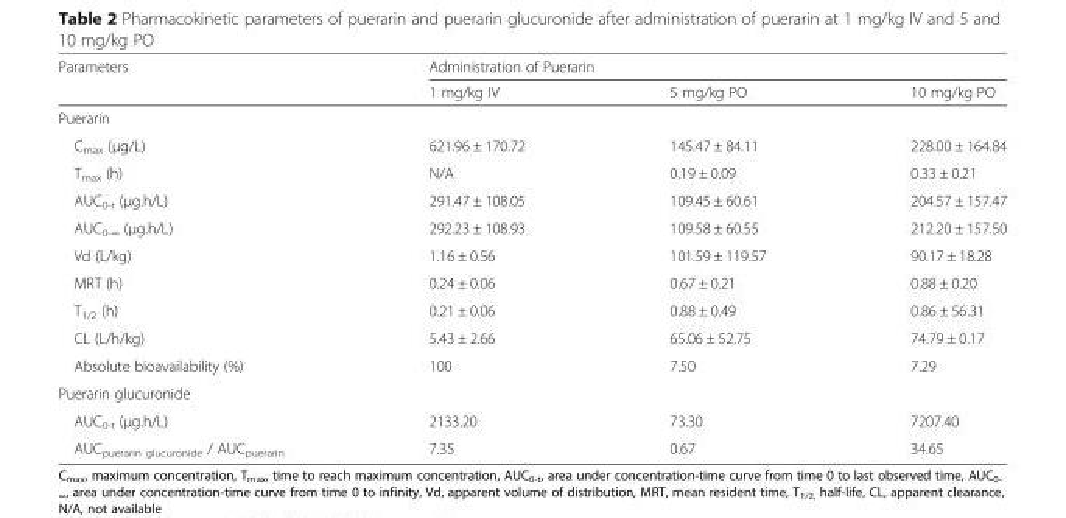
<table><thead><tr><td rowspan="2">Parameters</td><td colspan="3">Administration of Puerarin</td></tr><tr><td>1 mg/kg IV</td><td>5 mg/kg PO</td><td>10 mg/kg PO</td></tr></thead><tbody><tr><td colspan="4">Puerarin</td></tr><tr><td>C<sub>max</sub> (μg/L)</td><td>621.96 ± 170.72</td><td>145.47 ± 84.11</td><td>228.00 ± 164.84</td></tr><tr><td>T<sub>max</sub> (h)</td><td>N/A</td><td>0.19 ± 0.09</td><td>0.33 ± 0.21</td></tr><tr><td>AUC<sub>0-t</sub> (μg.h/L)</td><td>291.47 ± 108.05</td><td>109.45 ± 60.61</td><td>204.57 ± 157.47</td></tr><tr><td>AUC<sub>0-∞</sub> (μg.h/L)</td><td>292.23 ± 108.93</td><td>109.58 ± 60.55</td><td>212.20 ± 157.50</td></tr><tr><td>Vd (L/kg)</td><td>1.16 ± 0.56</td><td>101.59 ± 119.57</td><td>90.17 ± 18.28</td></tr><tr><td>MRT (h)</td><td>0.24 ± 0.06</td><td>0.67 ± 0.21</td><td>0.88 ± 0.20</td></tr><tr><td>T<sub>1/2</sub> (h)</td><td>0.21 ± 0.06</td><td>0.88 ± 0.49</td><td>0.86 ± 56.31</td></tr><tr><td>CL (L/h/kg)</td><td>5.43 ± 2.66</td><td>65.06 ± 52.75</td><td>74.79 ± 0.17</td></tr><tr><td>Absolute bioavailability (%)</td><td>100</td><td>7.50</td><td>7.29</td></tr><tr><td colspan="4">Puerarin glucuronide</td></tr><tr><td>AUC<sub>0-t</sub> (μg.h/L)</td><td>2133.20</td><td>73.30</td><td>7207.40</td></tr><tr><td>AUC<sub>puerarin glucuronide</sub> / AUC<sub>puerarin</sub></td><td>7.35</td><td>0.67</td><td>34.65</td></tr></tbody></table>